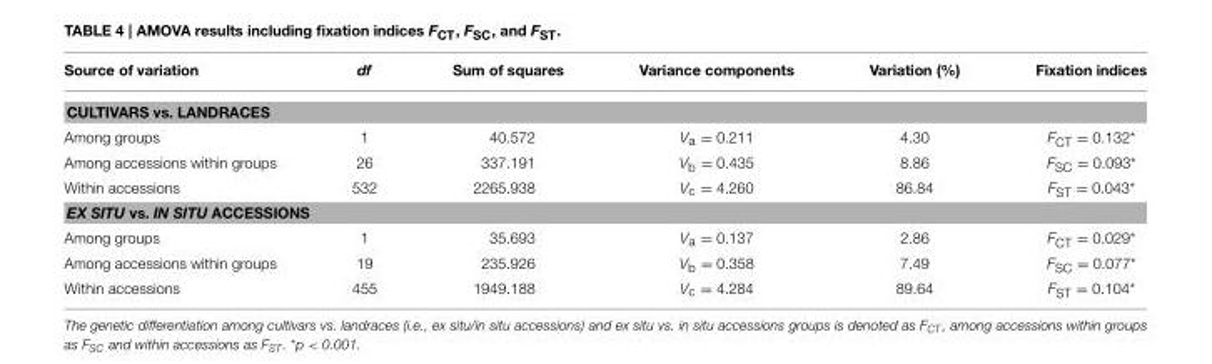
<table><thead><tr><td>Source of variation</td><td>df</td><td>Sum of squares</td><td>Variance components</td><td>Variation (%)</td><td>Fixation indices</td></tr></thead><tbody><tr><td colspan="6">CULTIVARS vs. LANDRACES</td></tr><tr><td>Among groups</td><td>1</td><td>40.572</td><td>V<sub>a</sub> = 0.211</td><td>4.30</td><td>F<sub>CT</sub> = 0.132*</td></tr><tr><td>Among accessions within groups</td><td>26</td><td>337.191</td><td>V<sub>b</sub> = 0.435</td><td>8.86</td><td>F<sub>SC</sub> = 0.093*</td></tr><tr><td>Within accessions</td><td>532</td><td>2265.938</td><td>V<sub>c</sub> = 4.260</td><td>86.84</td><td>F<sub>ST</sub> = 0.043*</td></tr><tr><td colspan="6">EX SITU vs. IN SITU ACCESSIONS</td></tr><tr><td>Among groups</td><td>1</td><td>35.693</td><td>V<sub>a</sub> = 0.137</td><td>2.86</td><td>F<sub>CT</sub> = 0.029*</td></tr><tr><td>Among accessions within groups</td><td>19</td><td>235.926</td><td>V<sub>b</sub> = 0.358</td><td>7.49</td><td>F<sub>SC</sub> = 0.077*</td></tr><tr><td>Within accessions</td><td>455</td><td>1949.188</td><td>V<sub>c</sub> = 4.284</td><td>89.64</td><td>F<sub>ST</sub> = 0.104*</td></tr></tbody></table>